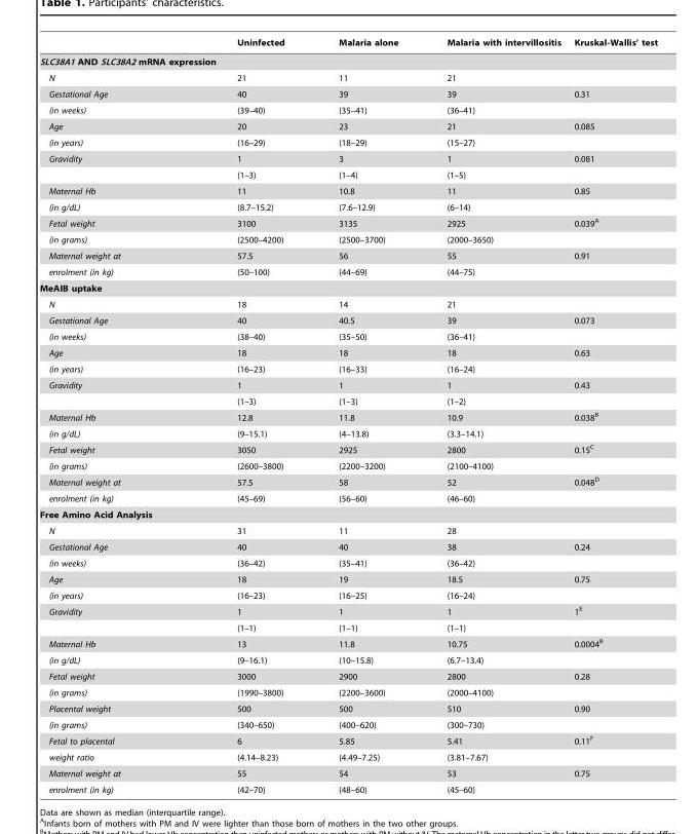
<table><thead><tr><td></td><td>Uninfected</td><td>Malaria alone</td><td>Malaria with intervillositis</td><td>Kruskal-Wallis’ test</td></tr></thead><tbody><tr><td colspan="5">SLC38A1 AND SLC38A2 mRNA expression</td></tr><tr><td>N</td><td>21</td><td>11</td><td>21</td><td></td></tr><tr><td>Gestational Age</td><td>40</td><td>39</td><td>39</td><td>0.31</td></tr><tr><td>(in weeks)</td><td>(39–40)</td><td>(35–41)</td><td>(36–41)</td><td></td></tr><tr><td>Age</td><td>20</td><td>23</td><td>21</td><td>0.085</td></tr><tr><td>(in years)</td><td>(16–29)</td><td>(18–29)</td><td>(15–27)</td><td></td></tr><tr><td rowspan="2">Gravidity</td><td>1</td><td>3</td><td>1</td><td>0.081</td></tr><tr><td>(1–3)</td><td>(1–4)</td><td>(1–5)</td><td></td></tr><tr><td>Maternal Hb</td><td>11</td><td>10.8</td><td>11</td><td>0.85</td></tr><tr><td>(in g/dL)</td><td>(8.7–15.2)</td><td>(7.6–12.9)</td><td>(6–14)</td><td></td></tr><tr><td>Fetal weight</td><td>3100</td><td>3135</td><td>2925</td><td>0.039<sup>A</sup></td></tr><tr><td>(in grams)</td><td>(2500–4200)</td><td>(2500–3700)</td><td>(2000–3650)</td><td></td></tr><tr><td>Maternal weight at</td><td>57.5</td><td>56</td><td>55</td><td>0.91</td></tr><tr><td>enrolment (in kg)</td><td>(50–100)</td><td>(44–69)</td><td>(44–75)</td><td></td></tr><tr><td colspan="5">MeAIB uptake</td></tr><tr><td>N</td><td>18</td><td>14</td><td>21</td><td></td></tr><tr><td>Gestational Age</td><td>40</td><td>40.5</td><td>39</td><td>0.073</td></tr><tr><td>(in weeks)</td><td>(38–40)</td><td>(35–50)</td><td>(36–41)</td><td></td></tr><tr><td>Age</td><td>18</td><td>18</td><td>18</td><td>0.63</td></tr><tr><td>(in years)</td><td>(16–23)</td><td>(16–33)</td><td>(16–24)</td><td></td></tr><tr><td rowspan="2">Gravidity</td><td>1</td><td>1</td><td>1</td><td>0.43</td></tr><tr><td>(1–3)</td><td>(1–3)</td><td>(1–2)</td><td></td></tr><tr><td>Maternal Hb</td><td>12.8</td><td>11.8</td><td>10.9</td><td>0.038<sup>B</sup></td></tr><tr><td>(in g/dL)</td><td>(9–15.1)</td><td>(4–13.8)</td><td>(3.3–14.1)</td><td></td></tr><tr><td>Fetal weight</td><td>3050</td><td>2925</td><td>2800</td><td>0.15<sup>C</sup></td></tr><tr><td>(in grams)</td><td>(2600–3800)</td><td>(2200–3200)</td><td>(2100–4100)</td><td></td></tr><tr><td>Maternal weight at</td><td>57.5</td><td>58</td><td>52</td><td>0.048<sup>D</sup></td></tr><tr><td>enrolment (in kg)</td><td>(45–69)</td><td>(56–60)</td><td>(46–60)</td><td></td></tr><tr><td colspan="5">Free Amino Acid Analysis</td></tr><tr><td>N</td><td>31</td><td>11</td><td>28</td><td></td></tr><tr><td>Gestational Age</td><td>40</td><td>40</td><td>38</td><td>0.24</td></tr><tr><td>(in weeks)</td><td>(36–42)</td><td>(35–41)</td><td>(36–42)</td><td></td></tr><tr><td>Age</td><td>18</td><td>19</td><td>18.5</td><td>0.75</td></tr><tr><td>(in years)</td><td>(16–23)</td><td>(16–25)</td><td>(16–24)</td><td></td></tr><tr><td rowspan="2">Gravidity</td><td>1</td><td>1</td><td>1</td><td>1<sup>E</sup></td></tr><tr><td>(1–1)</td><td>(1–1)</td><td>(1–1)</td><td></td></tr><tr><td>Maternal Hb</td><td>13</td><td>11.8</td><td>10.75</td><td>0.0004<sup>B</sup></td></tr><tr><td>(in g/dL)</td><td>(9–16.1)</td><td>(10–15.8)</td><td>(6.7–13.4)</td><td></td></tr><tr><td>Fetal weight</td><td>3000</td><td>2900</td><td>2800</td><td>0.28</td></tr><tr><td>(in grams)</td><td>(1990–3800)</td><td>(2200–3600)</td><td>(2000–4100)</td><td></td></tr><tr><td>Placental weight</td><td>500</td><td>500</td><td>510</td><td>0.90</td></tr><tr><td>(in grams)</td><td>(340–650)</td><td>(400–620)</td><td>(300–730)</td><td></td></tr><tr><td>Fetal to placental</td><td>6</td><td>5.85</td><td>5.41</td><td>0.11<sup>F</sup></td></tr><tr><td>weight ratio</td><td>(4.14–8.23)</td><td>(4.49–7.25)</td><td>(3.81–7.67)</td><td></td></tr><tr><td>Maternal weight at</td><td>55</td><td>54</td><td>53</td><td>0.75</td></tr><tr><td>enrolment (in kg)</td><td>(42–70)</td><td>(48–60)</td><td>(45–60)</td><td></td></tr></tbody></table>